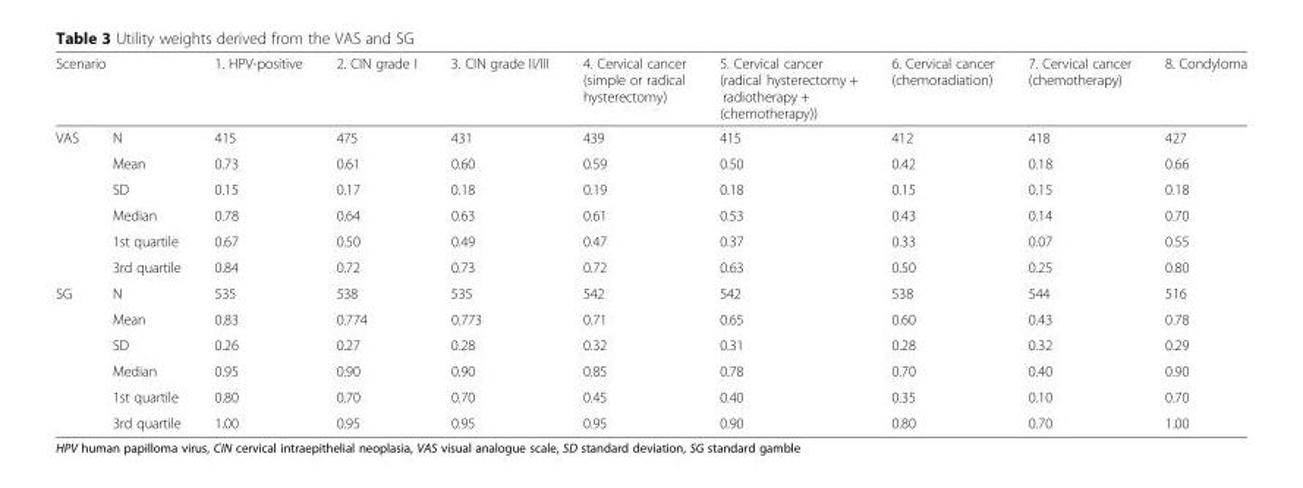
<table><thead><tr><td colspan="2">Scenario</td><td rowspan="2">1. HPV-positive 415</td><td rowspan="2">2. CIN grade I 475</td><td rowspan="2">3. CIN grade II/III 431</td><td rowspan="2">4. Cervical cancer (simple or radical hysterectomy) 439</td><td rowspan="2">5. Cervical cancer (radical hysterectomy + radiotherapy + (chemotherapy)) 415</td><td rowspan="2">6. Cervical cancer (chemoradiation) 412</td><td rowspan="2">7. Cervical cancer (chemotherapy) 418</td><td rowspan="2">8. Condyloma 427</td></tr><tr><td>VAS</td><td>N</td></tr></thead><tbody><tr><td></td><td>Mean</td><td>0.73</td><td>0.61</td><td>0.60</td><td>0.59</td><td>0.50</td><td>0.42</td><td>0.18</td><td>0.66</td></tr><tr><td></td><td>SD</td><td>0.15</td><td>0.17</td><td>0.18</td><td>0.19</td><td>0.18</td><td>0.15</td><td>0.15</td><td>0.18</td></tr><tr><td></td><td>Median</td><td>0.78</td><td>0.64</td><td>0.63</td><td>0.61</td><td>0.53</td><td>0.43</td><td>0.14</td><td>0.70</td></tr><tr><td></td><td>1st quartile</td><td>0.67</td><td>0.50</td><td>0.49</td><td>0.47</td><td>0.37</td><td>0.33</td><td>0.07</td><td>0.55</td></tr><tr><td></td><td>3rd quartile</td><td>0.84</td><td>0.72</td><td>0.73</td><td>0.72</td><td>0.63</td><td>0.50</td><td>0.25</td><td>0.80</td></tr><tr><td rowspan="6">SG</td><td>N</td><td>535</td><td>538</td><td>535</td><td>542</td><td>542</td><td>538</td><td>544</td><td>516</td></tr><tr><td>Mean</td><td>0.83</td><td>0.774</td><td>0.773</td><td>0.71</td><td>0.65</td><td>0.60</td><td>0.43</td><td>0.78</td></tr><tr><td>SD</td><td>0.26</td><td>0.27</td><td>0.28</td><td>0.32</td><td>0.31</td><td>0.28</td><td>0.32</td><td>0.29</td></tr><tr><td>Median</td><td>0.95</td><td>0.90</td><td>0.90</td><td>0.85</td><td>0.78</td><td>0.70</td><td>0.40</td><td>0.90</td></tr><tr><td>1st quartile</td><td>0.80</td><td>0.70</td><td>0.70</td><td>0.45</td><td>0.40</td><td>0.35</td><td>0.10</td><td>0.70</td></tr><tr><td>3rd quartile</td><td>1.00</td><td>0.95</td><td>0.95</td><td>0.95</td><td>0.90</td><td>0.80</td><td>0.70</td><td>1.00</td></tr></tbody></table>